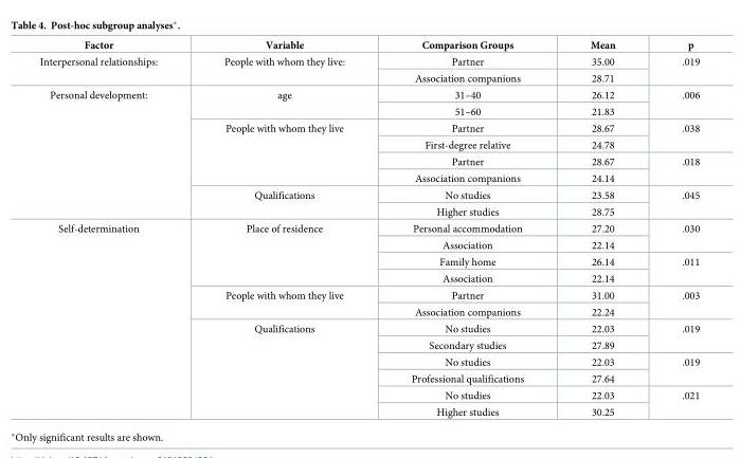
<table><thead><tr><td>Factor</td><td>Variable</td><td>Comparison Groups</td><td>Mean</td><td>p</td></tr></thead><tbody><tr><td rowspan="2">Interpersonal relationships:</td><td rowspan="2">People with whom they live:</td><td>Partner</td><td>35.00</td><td rowspan="2">.019</td></tr><tr><td>Association companions</td><td>28.71</td></tr><tr><td rowspan="8">Personal development:</td><td rowspan="2">age</td><td>31–40</td><td>26.12</td><td rowspan="2">.006</td></tr><tr><td>51–60</td><td>21.83</td></tr><tr><td rowspan="4">People with whom they live</td><td>Partner</td><td>28.67</td><td rowspan="2">.038</td></tr><tr><td>First-degree relative</td><td>24.78</td></tr><tr><td>Partner</td><td>28.67</td><td rowspan="2">.018</td></tr><tr><td>Association companions</td><td>24.14</td></tr><tr><td rowspan="2">Qualifications</td><td>No studies</td><td>23.58</td><td rowspan="2">.045</td></tr><tr><td>Higher studies</td><td>28.75</td></tr><tr><td rowspan="12">Self-determination</td><td rowspan="4">Place of residence</td><td>Personal accommodation</td><td>27.20</td><td rowspan="2">.030</td></tr><tr><td>Association</td><td>22.14</td></tr><tr><td>Family home</td><td>26.14</td><td rowspan="2">.011</td></tr><tr><td>Association</td><td>22.14</td></tr><tr><td rowspan="2">People with whom they live</td><td>Partner</td><td>31.00</td><td rowspan="2">.003</td></tr><tr><td>Association companions</td><td>22.24</td></tr><tr><td rowspan="6">Qualifications</td><td>No studies</td><td>22.03</td><td rowspan="2">.019</td></tr><tr><td>Secondary studies</td><td>27.89</td></tr><tr><td>No studies</td><td>22.03</td><td rowspan="2">.019</td></tr><tr><td>Professional qualifications</td><td>27.64</td></tr><tr><td>No studies</td><td>22.03</td><td rowspan="2">.021</td></tr><tr><td>Higher studies</td><td>30.25</td></tr></tbody></table>